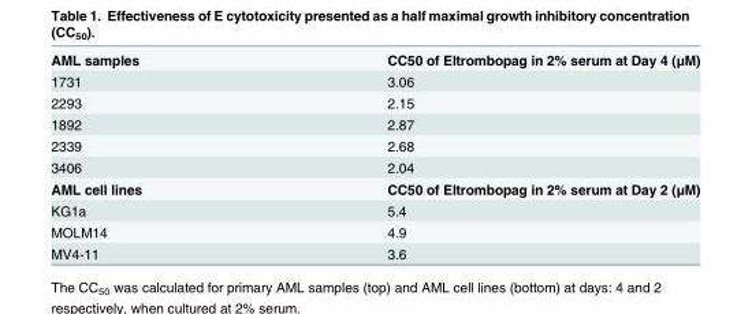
<table><tbody><tr><td>AML samples</td><td>CC50 of Eltrombopag in 2% serum at Day 4 (μM)</td></tr><tr><td>1731</td><td>3.06</td></tr><tr><td>2293</td><td>2.15</td></tr><tr><td>1892</td><td>2.87</td></tr><tr><td>2339</td><td>2.68</td></tr><tr><td>3406</td><td>2.04</td></tr><tr><td>AML cell lines</td><td>CC50 of Eltrombopag in 2% serum at Day 2 (μM)</td></tr><tr><td>KG1a</td><td>5.4</td></tr><tr><td>MOLM14</td><td>4.9</td></tr><tr><td>MV4-11</td><td>3.6</td></tr></tbody></table>